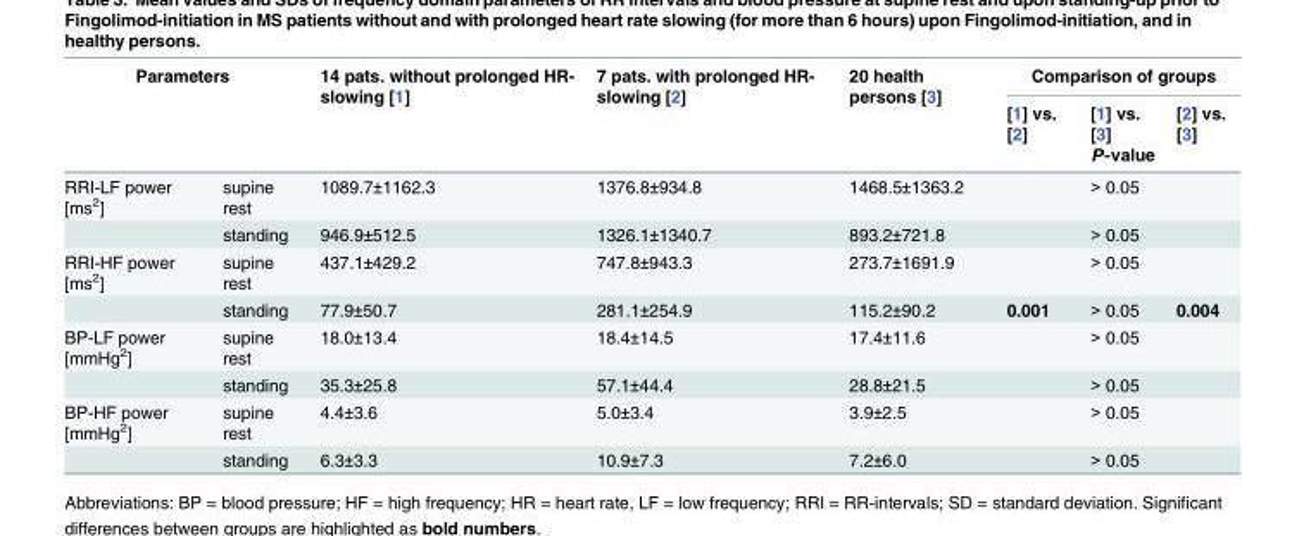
<table><thead><tr><td rowspan="3" colspan="2">Parameters</td><td rowspan="4">14 pats. without prolonged HR- slowing [1] 1089.7±1162.3</td><td rowspan="4">7 pats. with prolonged HR- slowing [2] 1376.8±934.8</td><td rowspan="4">20 health persons [3] 1468.5±1363.2</td><td colspan="3">Comparison of groups</td></tr><tr><td>[1] vs. [2]</td><td>[1] vs. [3]</td><td>[2] vs. [3]</td></tr><tr><td colspan="3">P-value</td></tr><tr><td>RRI-LF power [ms<sup>2</sup>]</td><td>supine rest</td><td></td><td>&gt; 0.05</td><td></td></tr></thead><tbody><tr><td></td><td>standing</td><td>946.9±512.5</td><td>1326.1±1340.7</td><td>893.2±721.8</td><td></td><td>&gt; 0.05</td><td></td></tr><tr><td rowspan="2">RRI-HF power [ms<sup>2</sup>]</td><td>supine rest</td><td>437.1±429.2</td><td>747.8±943.3</td><td>273.7±1691.9</td><td></td><td>&gt; 0.05</td><td></td></tr><tr><td>standing</td><td>77.9±50.7</td><td>281.1±254.9</td><td>115.2±90.2</td><td>0.001</td><td>&gt; 0.05</td><td>0.004</td></tr><tr><td rowspan="2">BP-LF power [mmHg<sup>2</sup>]</td><td>supine rest</td><td>18.0±13.4</td><td>18.4±14.5</td><td>17.4±11.6</td><td></td><td>&gt; 0.05</td><td></td></tr><tr><td>standing</td><td>35.3±25.8</td><td>57.1±44.4</td><td>28.8±21.5</td><td></td><td>&gt; 0.05</td><td></td></tr><tr><td rowspan="2">BP-HF power [mmHg<sup>2</sup>]</td><td>supine rest</td><td>4.4±3.6</td><td>5.0±3.4</td><td>3.9±2.5</td><td></td><td>&gt; 0.05</td><td></td></tr><tr><td>standing</td><td>6.3±3.3</td><td>10.9±7.3</td><td>7.2±6.0</td><td></td><td>&gt; 0.05</td><td></td></tr></tbody></table>